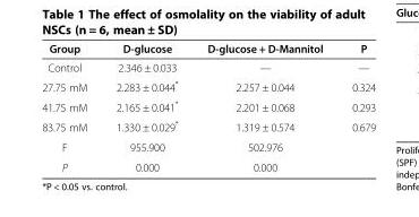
<table><thead><tr><td>Group</td><td>D-glucose</td><td>D-glucose + D-Mannitol</td><td>P</td></tr></thead><tbody><tr><td>Control</td><td>2.346 ± 0.033</td><td>—</td><td>—</td></tr><tr><td>27.75 mM</td><td>2.283 ± 0.044*</td><td>2.257 ± 0.044</td><td>0.324</td></tr><tr><td>41.75 mM</td><td>2.165 ± 0.041*</td><td>2.201 ± 0.068</td><td>0.293</td></tr><tr><td>83.75 mM</td><td>1.330 ± 0.029*</td><td>1.319 ± 0.574</td><td>0.679</td></tr><tr><td>F</td><td>955.900</td><td>502.976</td><td></td></tr><tr><td>P</td><td>0.000</td><td>0.000</td><td></td></tr></tbody></table>